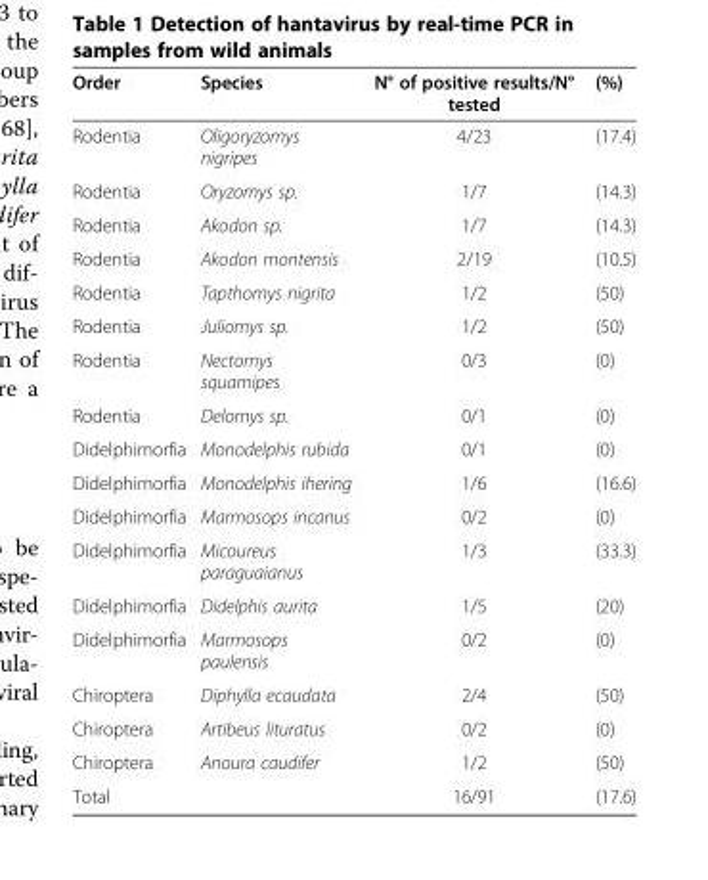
<table><thead><tr><td>Order</td><td>Species</td><td>N° of positive results/N° tested</td><td>(%)</td></tr></thead><tbody><tr><td>Rodentia</td><td>Oligoryzomys nigripes</td><td>4/23</td><td>(17.4)</td></tr><tr><td>Rodentia</td><td>Oryzomys sp.</td><td>1/7</td><td>(14.3)</td></tr><tr><td>Rodentia</td><td>Akodon sp.</td><td>1/7</td><td>(14.3)</td></tr><tr><td>Rodentia</td><td>Akodon montensis</td><td>2/19</td><td>(10.5)</td></tr><tr><td>Rodentia</td><td>Tapthomys nigrita</td><td>1/2</td><td>(50)</td></tr><tr><td>Rodentia</td><td>Juliomys sp.</td><td>1/2</td><td>(50)</td></tr><tr><td>Rodentia</td><td>Nectomys squamipes</td><td>0/3</td><td>(0)</td></tr><tr><td>Rodentia</td><td>Delomys sp.</td><td>0/1</td><td>(0)</td></tr><tr><td>Didelphimorfia</td><td>Monodelphis rubida</td><td>0/1</td><td>(0)</td></tr><tr><td>Didelphimorfia</td><td>Monodelphis ihering</td><td>1/6</td><td>(16.6)</td></tr><tr><td>Didelphimorfia</td><td>Marmosops incanus</td><td>0/2</td><td>(0)</td></tr><tr><td>Didelphimorfia</td><td>Micoureus paraguaianus</td><td>1/3</td><td>(33.3)</td></tr><tr><td>Didelphimorfia</td><td>Didelphis aurita</td><td>1/5</td><td>(20)</td></tr><tr><td>Didelphimorfia</td><td>Marmosops paulensis</td><td>0/2</td><td>(0)</td></tr><tr><td>Chiroptera</td><td>Diphylla ecaudata</td><td>2/4</td><td>(50)</td></tr><tr><td>Chiroptera</td><td>Artibeus lituratus</td><td>0/2</td><td>(0)</td></tr><tr><td>Chiroptera</td><td>Anoura caudifer</td><td>1/2</td><td>(50)</td></tr><tr><td>Total</td><td></td><td>16/91</td><td>(17.6)</td></tr></tbody></table>